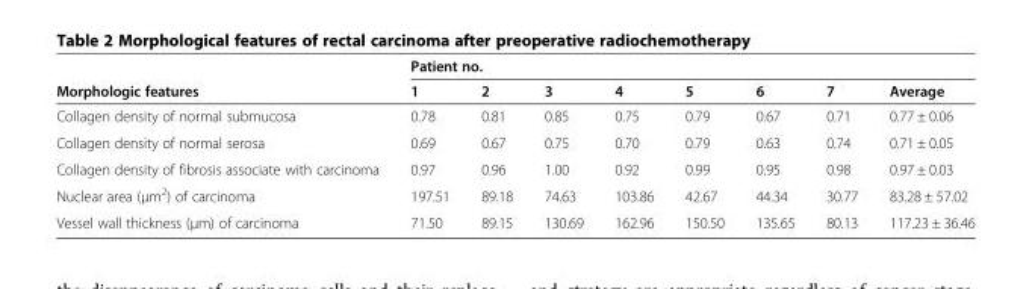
<table><thead><tr><td rowspan="2">Morphologic features</td><td colspan="8">Patient no.</td></tr><tr><td>1</td><td>2</td><td>3</td><td>4</td><td>5</td><td>6</td><td>7</td><td>Average</td></tr></thead><tbody><tr><td>Collagen density of normal submucosa</td><td>0.78</td><td>0.81</td><td>0.85</td><td>0.75</td><td>0.79</td><td>0.67</td><td>0.71</td><td>0.77 ± 0.06</td></tr><tr><td>Collagen density of normal serosa</td><td>0.69</td><td>0.67</td><td>0.75</td><td>0.70</td><td>0.79</td><td>0.63</td><td>0.74</td><td>0.71 ± 0.05</td></tr><tr><td>Collagen density of fibrosis associate with carcinoma</td><td>0.97</td><td>0.96</td><td>1.00</td><td>0.92</td><td>0.99</td><td>0.95</td><td>0.98</td><td>0.97 ± 0.03</td></tr><tr><td>Nuclear area (μm<sup>2</sup>) of carcinoma</td><td>197.51</td><td>89.18</td><td>74.63</td><td>103.86</td><td>42.67</td><td>44.34</td><td>30.77</td><td>83.28 ± 57.02</td></tr><tr><td>Vessel wall thickness (μm) of carcinoma</td><td>71.50</td><td>89.15</td><td>130.69</td><td>162.96</td><td>150.50</td><td>135.65</td><td>80.13</td><td>117.23 ± 36.46</td></tr></tbody></table>